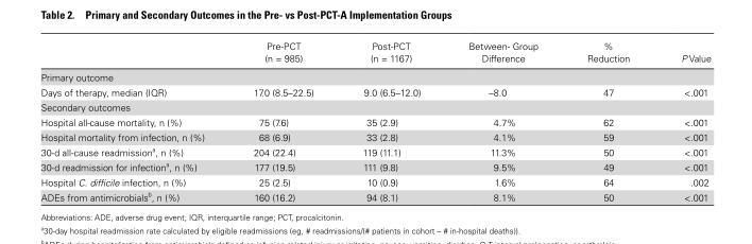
<table><thead><tr><td></td><td>Pre-PCT (n = 985)</td><td>Post-PCT (n = 1167)</td><td>Between- Group Difference</td><td>% Reduction</td><td>P Value</td></tr></thead><tbody><tr><td colspan="6">Primary outcome</td></tr><tr><td>Days of therapy, median (IQR)</td><td>17.0 (8.5–22.5)</td><td>9.0 (6.5–12.0)</td><td>–8.0</td><td>47</td><td>&lt;.001</td></tr><tr><td colspan="6">Secondary outcomes</td></tr><tr><td>Hospital all-cause mortality, n (%)</td><td>75 (7.6)</td><td>35 (2.9)</td><td>4.7%</td><td>62</td><td>&lt;.001</td></tr><tr><td>Hospital mortality from infection, n (%)</td><td>68 (6.9)</td><td>33 (2.8)</td><td>4.1%</td><td>59</td><td>&lt;.001</td></tr><tr><td>30-d all-cause readmission<sup>a</sup>, n (%)</td><td>204 (22.4)</td><td>119 (11.1)</td><td>11.3%</td><td>50</td><td>&lt;.001</td></tr><tr><td>30-d readmission for infection<sup>a</sup>, n (%)</td><td>177 (19.5)</td><td>111 (9.8)</td><td>9.5%</td><td>49</td><td>&lt;.001</td></tr><tr><td>Hospital C. difficile infection, n (%)</td><td>25 (2.5)</td><td>10 (0.9)</td><td>1.6%</td><td>64</td><td>.002</td></tr><tr><td>ADEs from antimicrobials<sup>b</sup>, n (%)</td><td>160 (16.2)</td><td>94 (8.1)</td><td>8.1%</td><td>50</td><td>&lt;.001</td></tr></tbody></table>